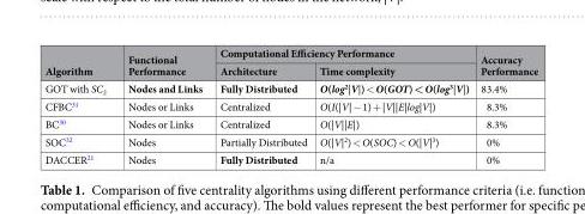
<table><thead><tr><td rowspan="2">Algorithm</td><td rowspan="2">Functional Performance</td><td colspan="2">Computational Efficiency Performance</td><td rowspan="2">Accuracy Performance</td></tr><tr><td>Architecture</td><td>Time complexity</td></tr></thead><tbody><tr><td>GOT with SC<sub>2</sub></td><td>Nodes and Links</td><td>Fully Distributed</td><td>O(log2|V|) &lt; O(GOT) &lt; O(log3|V|)</td><td>83.4%</td></tr><tr><td>CFBC<sup>31</sup></td><td>Nodes or Links</td><td>Centralized</td><td>O(I(|V| − 1) + |V||E|log|V|)</td><td>8.3%</td></tr><tr><td>BC<sup>30</sup></td><td>Nodes or Links</td><td>Centralized</td><td>O(|V||E|)</td><td>8.3%</td></tr><tr><td>SOC<sup>32</sup></td><td>Nodes</td><td>Partially Distributed</td><td>O(|V|<sup>2</sup>) &lt; O(SOC) &lt; O(|V|<sup>3</sup>)</td><td>0%</td></tr><tr><td>DACCER<sup>21</sup></td><td>Nodes</td><td>Fully Distributed</td><td>n/a</td><td>0%</td></tr></tbody></table>